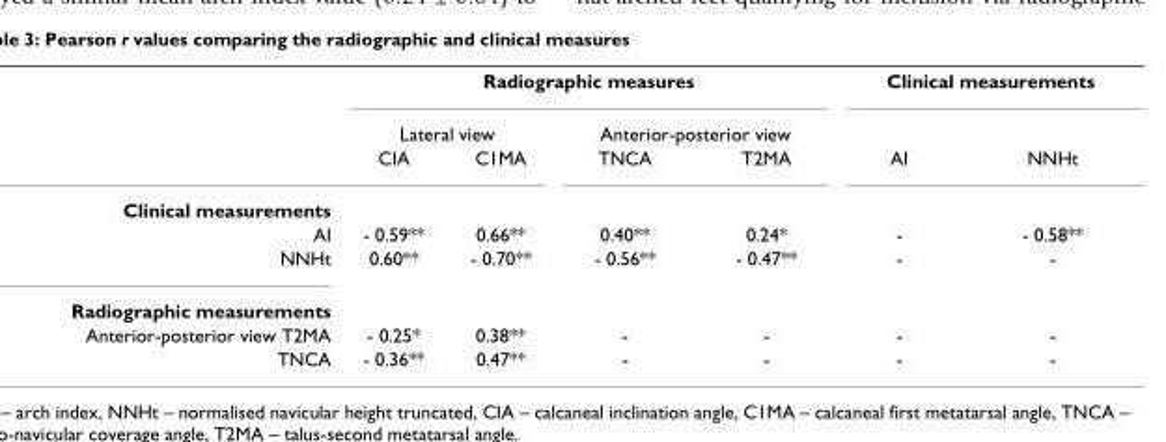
<table><thead><tr><td rowspan="3"></td><td colspan="4">Radiographic measures</td><td colspan="2">Clinical measurements</td></tr><tr><td colspan="2">Lateral view</td><td colspan="2">Anterior-posterior view</td><td rowspan="2">AI</td><td rowspan="2">NNHt</td></tr><tr><td>CIA</td><td>C1MA</td><td>TNCA</td><td>T2MA</td></tr></thead><tbody><tr><td colspan="7">Clinical measurements</td></tr><tr><td>AI</td><td>- 0.59**</td><td>0.66**</td><td>0.40**</td><td>0.24*</td><td>-</td><td>- 0.58**</td></tr><tr><td>NNHt</td><td>0.60**</td><td>- 0.70**</td><td>- 0.56**</td><td>- 0.47**</td><td>-</td><td>-</td></tr><tr><td colspan="7">Radiographic measurements</td></tr><tr><td>Anterior-posterior view T2MA</td><td>- 0.25*</td><td>0.38**</td><td>-</td><td>-</td><td>-</td><td>-</td></tr><tr><td>TNCA</td><td>- 0.36**</td><td>0.47**</td><td>-</td><td>-</td><td>-</td><td>-</td></tr></tbody></table>